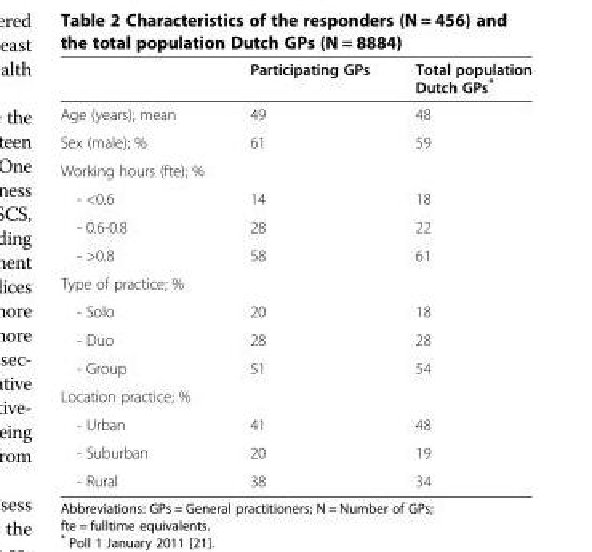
<table><thead><tr><td></td><td>Participating GPs</td><td>Total population Dutch GPs*</td></tr></thead><tbody><tr><td>Age (years); mean</td><td>49</td><td>48</td></tr><tr><td>Sex (male); %</td><td>61</td><td>59</td></tr><tr><td colspan="3">Working hours (fte); %</td></tr><tr><td>- &lt;0.6</td><td>14</td><td>18</td></tr><tr><td>- 0.6-0.8</td><td>28</td><td>22</td></tr><tr><td>- &gt;0.8</td><td>58</td><td>61</td></tr><tr><td colspan="3">Type of practice; %</td></tr><tr><td>- Solo</td><td>20</td><td>18</td></tr><tr><td>- Duo</td><td>28</td><td>28</td></tr><tr><td>- Group</td><td>51</td><td>54</td></tr><tr><td colspan="3">Location practice; %</td></tr><tr><td>- Urban</td><td>41</td><td>48</td></tr><tr><td>- Suburban</td><td>20</td><td>19</td></tr><tr><td>- Rural</td><td>38</td><td>34</td></tr></tbody></table>